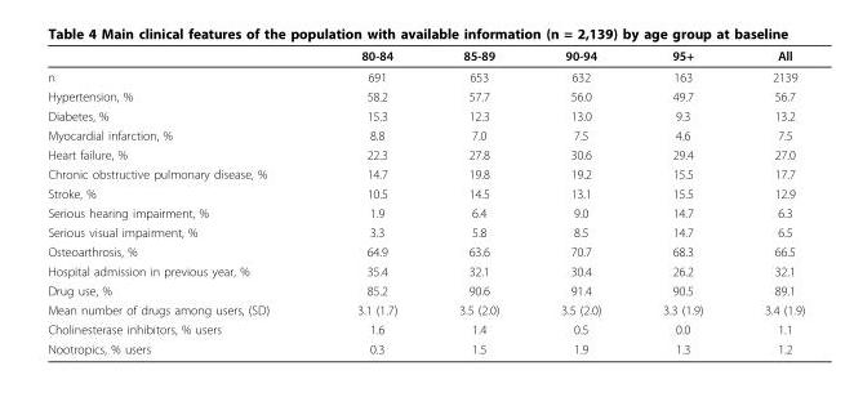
<table><thead><tr><td></td><td>80-84</td><td>85-89</td><td>90-94</td><td>95+</td><td>All</td></tr></thead><tbody><tr><td>n</td><td>691</td><td>653</td><td>632</td><td>163</td><td>2139</td></tr><tr><td>Hypertension, %</td><td>58.2</td><td>57.7</td><td>56.0</td><td>49.7</td><td>56.7</td></tr><tr><td>Diabetes, %</td><td>15.3</td><td>12.3</td><td>13.0</td><td>9.3</td><td>13.2</td></tr><tr><td>Myocardial infarction, %</td><td>8.8</td><td>7.0</td><td>7.5</td><td>4.6</td><td>7.5</td></tr><tr><td>Heart failure, %</td><td>22.3</td><td>27.8</td><td>30.6</td><td>29.4</td><td>27.0</td></tr><tr><td>Chronic obstructive pulmonary disease, %</td><td>14.7</td><td>19.8</td><td>19.2</td><td>15.5</td><td>17.7</td></tr><tr><td>Stroke, %</td><td>10.5</td><td>14.5</td><td>13.1</td><td>15.5</td><td>12.9</td></tr><tr><td>Serious hearing impairment, %</td><td>1.9</td><td>6.4</td><td>9.0</td><td>14.7</td><td>6.3</td></tr><tr><td>Serious visual impairment, %</td><td>3.3</td><td>5.8</td><td>8.5</td><td>14.7</td><td>6.5</td></tr><tr><td>Osteoarthrosis, %</td><td>64.9</td><td>63.6</td><td>70.7</td><td>68.3</td><td>66.5</td></tr><tr><td>Hospital admission in previous year, %</td><td>35.4</td><td>32.1</td><td>30.4</td><td>26.2</td><td>32.1</td></tr><tr><td>Drug use, %</td><td>85.2</td><td>90.6</td><td>91.4</td><td>90.5</td><td>89.1</td></tr><tr><td>Mean number of drugs among users, (SD)</td><td>3.1 (1.7)</td><td>3.5 (2.0)</td><td>3.5 (2.0)</td><td>3.3 (1.9)</td><td>3.4 (1.9)</td></tr><tr><td>Cholinesterase inhibitors, % users</td><td>1.6</td><td>1.4</td><td>0.5</td><td>0.0</td><td>1.1</td></tr><tr><td>Nootropics, % users</td><td>0.3</td><td>1.5</td><td>1.9</td><td>1.3</td><td>1.2</td></tr></tbody></table>